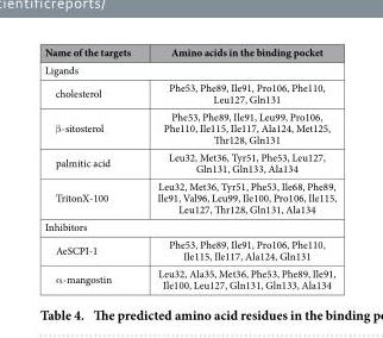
<table><thead><tr><td>Name of the targets</td><td>Amino acids in the binding pocket</td></tr></thead><tbody><tr><td colspan="2">Ligands</td></tr><tr><td>cholesterol</td><td>Phe53, Phe89, Ile91, Pro106, Phe110, Leu127, Gln131</td></tr><tr><td>β -sitosterol</td><td>Phe53, Phe89, Ile91, Leu99, Pro106, Phe110, Ile115, Ile117, Ala124, Met125, Thr128, Gln131</td></tr><tr><td>palmitic acid</td><td>Leu32, Met36, Tyr51, Phe53, Leu127, Gln131, Gln133, Ala134</td></tr><tr><td>TritonX-100</td><td>Leu32, Met36, Tyr51, Phe53, Ile68, Phe89, Ile91, Val96, Leu99, Ile100, Pro106, Ile115, Leu127, Thr128, Gln131, Ala134</td></tr><tr><td colspan="2">Inhibitors</td></tr><tr><td>AeSCPI-1</td><td>Phe53, Phe89, Ile91, Pro106, Phe110, Ile115, Ile117, Ala124, Gln131</td></tr><tr><td>α -mangostin</td><td>Leu32, Ala35, Met36, Phe53, Phe89, Ile91, Ile100, Leu127, Gln131, Gln133, Ala134</td></tr></tbody></table>